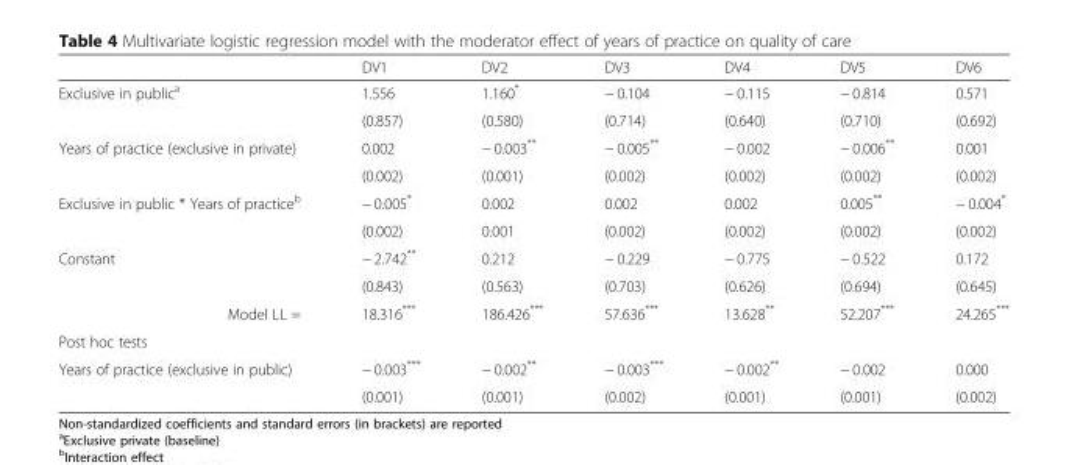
<table><thead><tr><td></td><td>DV1</td><td>DV2</td><td>DV3</td><td>DV4</td><td>DV5</td><td>DV6</td></tr></thead><tbody><tr><td rowspan="2">Exclusive in public<sup>a</sup></td><td>1.556</td><td>1.160*</td><td>− 0.104</td><td>− 0.115</td><td>− 0.814</td><td>0.571</td></tr><tr><td>(0.857)</td><td>(0.580)</td><td>(0.714)</td><td>(0.640)</td><td>(0.710)</td><td>(0.692)</td></tr><tr><td rowspan="2">Years of practice (exclusive in private)</td><td>0.002</td><td>− 0.003**</td><td>− 0.005**</td><td>− 0.002</td><td>− 0.006**</td><td>0.001</td></tr><tr><td>(0.002)</td><td>(0.001)</td><td>(0.002)</td><td>(0.002)</td><td>(0.002)</td><td>(0.002)</td></tr><tr><td rowspan="2">Exclusive in public * Years of practice<sup>b</sup></td><td>− 0.005*</td><td>0.002</td><td>0.002</td><td>0.002</td><td>0.005**</td><td>− 0.004*</td></tr><tr><td>(0.002)</td><td>0.001</td><td>(0.002)</td><td>(0.002)</td><td>(0.002)</td><td>(0.002)</td></tr><tr><td rowspan="2">Constant</td><td>− 2.742**</td><td>0.212</td><td>− 0.229</td><td>− 0.775</td><td>− 0.522</td><td>0.172</td></tr><tr><td>(0.843)</td><td>(0.563)</td><td>(0.703)</td><td>(0.626)</td><td>(0.694)</td><td>(0.645)</td></tr><tr><td>Model LL =</td><td>18.316***</td><td>186.426***</td><td>57.636***</td><td>13.628**</td><td>52.207***</td><td>24.265***</td></tr><tr><td colspan="7">Post hoc tests</td></tr><tr><td rowspan="2">Years of practice (exclusive in public)</td><td>− 0.003***</td><td>− 0.002**</td><td>− 0.003***</td><td>− 0.002**</td><td>− 0.002</td><td>0.000</td></tr><tr><td>(0.001)</td><td>(0.001)</td><td>(0.002)</td><td>(0.001)</td><td>(0.001)</td><td>(0.002)</td></tr></tbody></table>